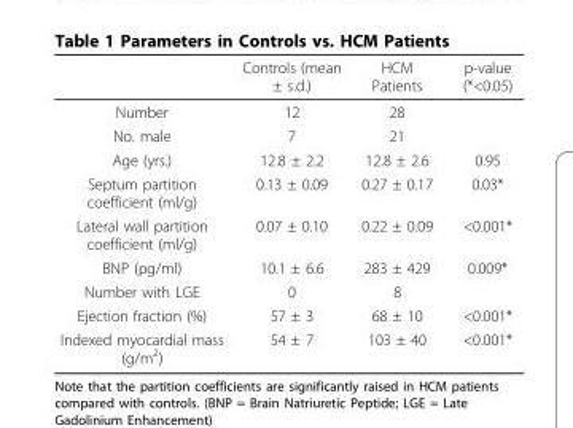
<table><thead><tr><td></td><td>Controls (mean ± s.d.)</td><td>HCM Patients</td><td>p-value (*&lt;0.05)</td></tr></thead><tbody><tr><td>Number</td><td>12</td><td>28</td><td></td></tr><tr><td>No. male</td><td>7</td><td>21</td><td></td></tr><tr><td>Age (yrs.)</td><td>12.8 ± 2.2</td><td>12.8 ± 2.6</td><td>0.95</td></tr><tr><td>Septum partition coefficient (ml/g)</td><td>0.13 ± 0.09</td><td>0.27 ± 0.17</td><td>0.03*</td></tr><tr><td>Lateral wall partition coefficient (ml/g)</td><td>0.07 ± 0.10</td><td>0.22 ± 0.09</td><td>&lt;0.001*</td></tr><tr><td>BNP (pg/ml)</td><td>10.1 ± 6.6</td><td>283 ± 429</td><td>0.009*</td></tr><tr><td>Number with LGE</td><td>0</td><td>8</td><td></td></tr><tr><td>Ejection fraction (%)</td><td>57 ± 3</td><td>68 ± 10</td><td>&lt;0.001*</td></tr><tr><td>Indexed myocardial mass (g/m<sup>2</sup>)</td><td>54 ± 7</td><td>103 ± 40</td><td>&lt;0.001*</td></tr></tbody></table>